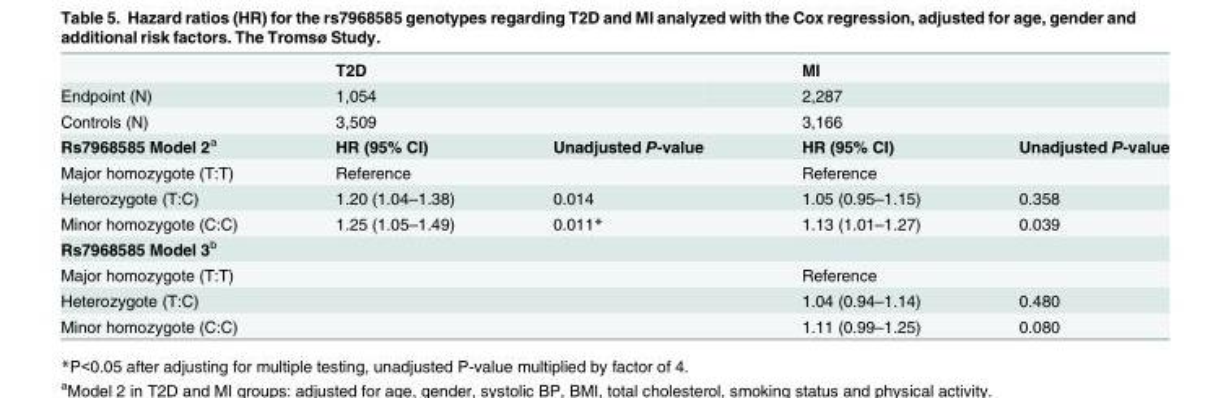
<table><thead><tr><td rowspan="4">Endpoint (N) Controls (N) Rs7968585 Model 2<sup>a</sup></td><td rowspan="3" colspan="2">T2D 1,054 3,509</td><td rowspan="3" colspan="2">MI 2,287 3,166</td></tr><tr></tr><tr></tr><tr><td>HR (95% CI)</td><td>Unadjusted P-value</td><td>HR (95% CI)</td><td>Unadjusted P-value</td></tr></thead><tbody><tr><td>Major homozygote (T:T)</td><td>Reference</td><td></td><td>Reference</td><td></td></tr><tr><td>Heterozygote (T:C)</td><td>1.20 (1.04–1.38)</td><td>0.014</td><td>1.05 (0.95–1.15)</td><td>0.358</td></tr><tr><td>Minor homozygote (C:C)</td><td>1.25 (1.05–1.49)</td><td>0.011*</td><td>1.13 (1.01–1.27)</td><td>0.039</td></tr><tr><td colspan="5">Rs7968585 Model 3<sup>b</sup></td></tr><tr><td>Major homozygote (T:T)</td><td></td><td></td><td>Reference</td><td></td></tr><tr><td>Heterozygote (T:C)</td><td></td><td></td><td>1.04 (0.94–1.14)</td><td>0.480</td></tr><tr><td>Minor homozygote (C:C)</td><td></td><td></td><td>1.11 (0.99–1.25)</td><td>0.080</td></tr></tbody></table>